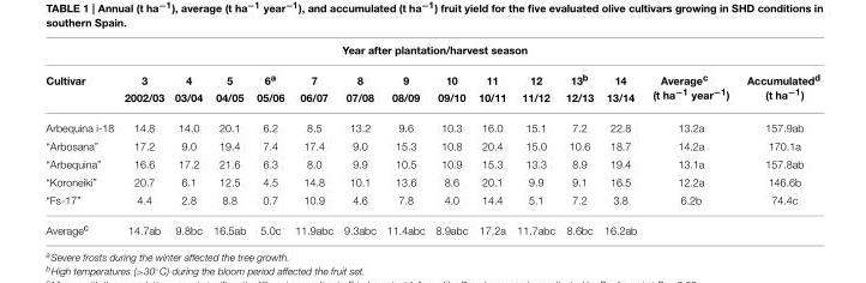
<table><thead><tr><td colspan="15">Year after plantation/harvest season</td></tr><tr><td rowspan="2">Cultivar</td><td rowspan="2">3 2002/03</td><td rowspan="2">4 03/04</td><td rowspan="2">5 04/05</td><td rowspan="2">6<sup>a</sup> 05/06</td><td rowspan="2">7 06/07</td><td rowspan="2">8 07/08</td><td rowspan="2">9 08/09</td><td rowspan="2">10 09/10</td><td rowspan="2">11 10/11</td><td rowspan="2">12 11/12</td><td rowspan="2">13<sup>b</sup> 12/13</td><td rowspan="2">14 13/14</td><td rowspan="2">Average<sup>c</sup> (t ha<sup>−1</sup> year<sup>−1</sup>)</td><td rowspan="2">Accumulated<sup>d</sup> (t ha<sup>−1</sup>)</td></tr><tr></tr></thead><tbody><tr><td>Arbequina i-18</td><td>14.8</td><td>14.0</td><td>20.1</td><td>6.2</td><td>8.5</td><td>13.2</td><td>9.6</td><td>10.3</td><td>16.0</td><td>15.1</td><td>7.2</td><td>22.8</td><td>13.2a</td><td>157.9ab</td></tr><tr><td>“Arbosana”</td><td>17.2</td><td>9.0</td><td>19.4</td><td>7.4</td><td>17.4</td><td>9.0</td><td>15.3</td><td>10.8</td><td>20.4</td><td>15.0</td><td>10.6</td><td>18.7</td><td>14.2a</td><td>170.1a</td></tr><tr><td>“Arbequina”</td><td>16.6</td><td>17.2</td><td>21.6</td><td>6.3</td><td>8.0</td><td>9.9</td><td>10.5</td><td>10.9</td><td>15.3</td><td>13.3</td><td>8.9</td><td>19.4</td><td>13.1a</td><td>157.8ab</td></tr><tr><td>“Koroneiki”</td><td>20.7</td><td>6.1</td><td>12.5</td><td>4.5</td><td>14.8</td><td>10.1</td><td>13.6</td><td>8.6</td><td>20.1</td><td>9.9</td><td>9.1</td><td>16.5</td><td>12.2a</td><td>146.6b</td></tr><tr><td>“Fs-17”</td><td>4.4</td><td>2.8</td><td>8.8</td><td>0.7</td><td>10.9</td><td>4.6</td><td>7.8</td><td>4.0</td><td>14.4</td><td>5.1</td><td>7.2</td><td>3.8</td><td>6.2b</td><td>74.4c</td></tr><tr><td>Average<sup>c</sup></td><td>14.7ab</td><td>9.8bc</td><td>16.5ab</td><td>5.0c</td><td>11.9abc</td><td>9.3abc</td><td>11.4abc</td><td>8.9abc</td><td>17.2a</td><td>11.7abc</td><td>8.6bc</td><td>16.2ab</td><td></td><td></td></tr></tbody></table>